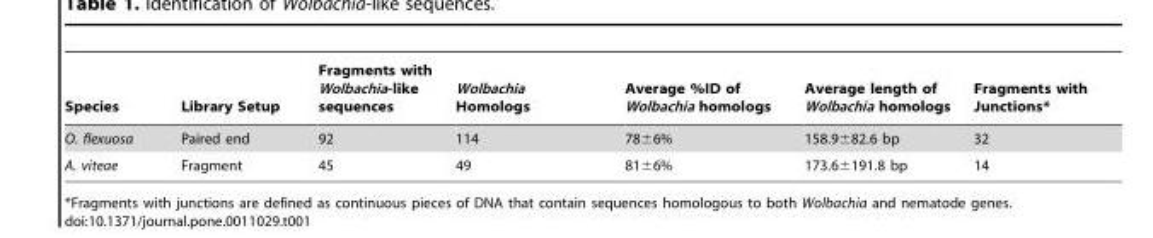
<table><thead><tr><td>Species</td><td>Library Setup</td><td>Fragments with Wolbachia-like sequences</td><td>Wolbachia Homologs</td><td>Average %ID of Wolbachia homologs</td><td>Average length of Wolbachia homologs</td><td>Fragments with Junctions*</td></tr></thead><tbody><tr><td>O. flexuosa</td><td>Paired end</td><td>92</td><td>114</td><td>78±6%</td><td>158.9±82.6 bp</td><td>32</td></tr><tr><td>A. viteae</td><td>Fragment</td><td>45</td><td>49</td><td>81±6%</td><td>173.6±191.8 bp</td><td>14</td></tr></tbody></table>